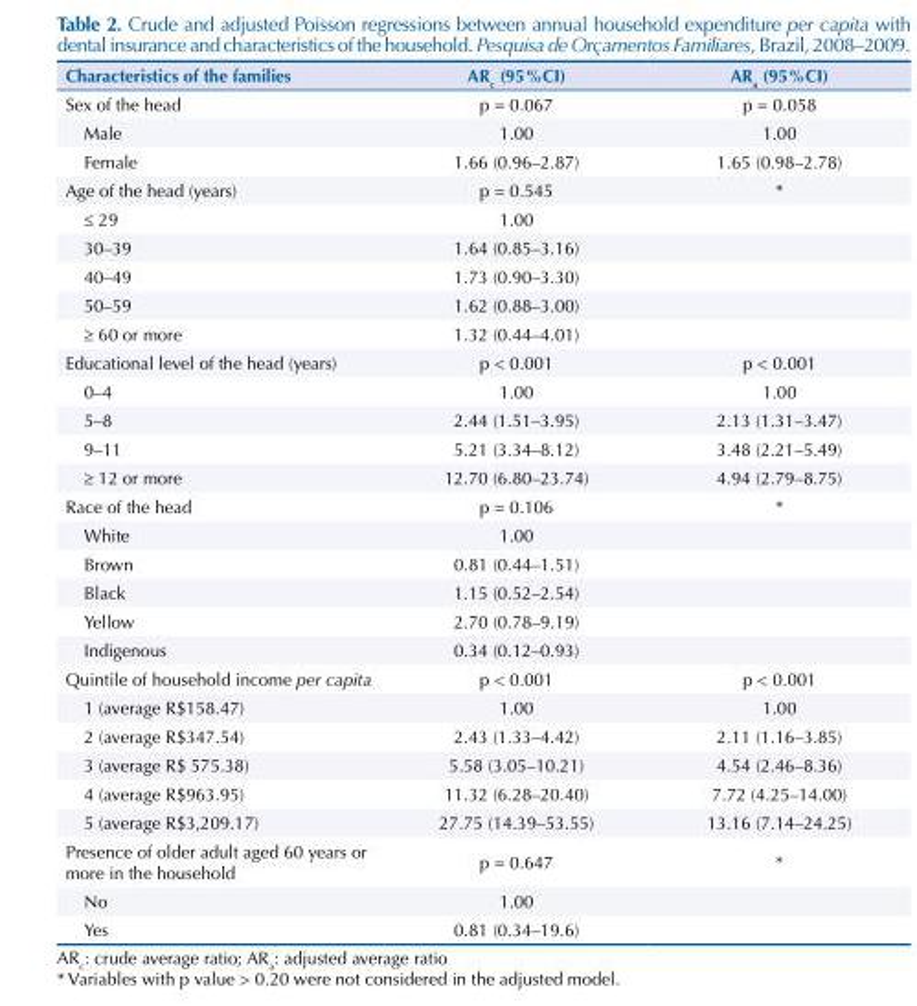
<table><thead><tr><td>Characteristics of the families</td><td>AR<sub>c</sub> (95%CI)</td><td>AR<sub>a</sub> (95%CI)</td></tr></thead><tbody><tr><td>Sex of the head</td><td>p = 0.067</td><td>p = 0.058</td></tr><tr><td>Male</td><td>1.00</td><td>1.00</td></tr><tr><td>Female</td><td>1.66 (0.96–2.87)</td><td>1.65 (0.98–2.78)</td></tr><tr><td>Age of the head (years)</td><td>p = 0.545</td><td>*</td></tr><tr><td>≤ 29</td><td>1.00</td><td></td></tr><tr><td>30–39</td><td>1.64 (0.85–3.16)</td><td></td></tr><tr><td>40–49</td><td>1.73 (0.90–3.30)</td><td></td></tr><tr><td>50–59</td><td>1.62 (0.88–3.00)</td><td></td></tr><tr><td>≥ 60 or more</td><td>1.32 (0.44–4.01)</td><td></td></tr><tr><td>Educational level of the head (years)</td><td>p &lt; 0.001</td><td>p &lt; 0.001</td></tr><tr><td>0–4</td><td>1.00</td><td>1.00</td></tr><tr><td>5–8</td><td>2.44 (1.51–3.95)</td><td>2.13 (1.31–3.47)</td></tr><tr><td>9–11</td><td>5.21 (3.34–8.12)</td><td>3.48 (2.21–5.49)</td></tr><tr><td>≥ 12 or more</td><td>12.70 (6.80–23.74)</td><td>4.94 (2.79–8.75)</td></tr><tr><td>Race of the head</td><td>p = 0.106</td><td>*</td></tr><tr><td>White</td><td>1.00</td><td></td></tr><tr><td>Brown</td><td>0.81 (0.44–1.51)</td><td></td></tr><tr><td>Black</td><td>1.15 (0.52–2.54)</td><td></td></tr><tr><td>Yellow</td><td>2.70 (0.78–9.19)</td><td></td></tr><tr><td>Indigenous</td><td>0.34 (0.12–0.93)</td><td></td></tr><tr><td>Quintile of household income per capita</td><td>p &lt; 0.001</td><td>p &lt; 0.001</td></tr><tr><td>1 (average R$158.47)</td><td>1.00</td><td>1.00</td></tr><tr><td>2 (average R$347.54)</td><td>2.43 (1.33–4.42)</td><td>2.11 (1.16–3.85)</td></tr><tr><td>3 (average R$ 575.38)</td><td>5.58 (3.05–10.21)</td><td>4.54 (2.46–8.36)</td></tr><tr><td>4 (average R$963.95)</td><td>11.32 (6.28–20.40)</td><td>7.72 (4.25–14.00)</td></tr><tr><td>5 (average R$3,209.17)</td><td>27.75 (14.39–53.55)</td><td>13.16 (7.14–24.25)</td></tr><tr><td>Presence of older adult aged 60 years or more in the household</td><td>p = 0.647</td><td>*</td></tr><tr><td>No</td><td>1.00</td><td></td></tr><tr><td>Yes</td><td>0.81 (0.34–19.6)</td><td></td></tr></tbody></table>